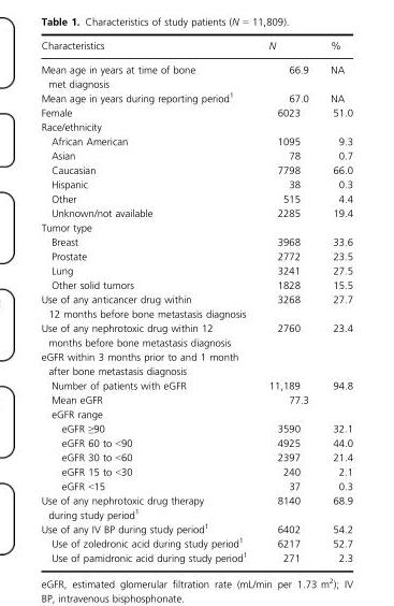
<table><thead><tr><td>Characteristics</td><td>N</td><td>%</td></tr></thead><tbody><tr><td>Mean age in years at time of bone met diagnosis</td><td>66.9</td><td>NA</td></tr><tr><td>Mean age in years during reporting period<sup>1</sup></td><td>67.0</td><td>NA</td></tr><tr><td>Female</td><td>6023</td><td>51.0</td></tr><tr><td colspan="3">Race/ethnicity</td></tr><tr><td>African American</td><td>1095</td><td>9.3</td></tr><tr><td>Asian</td><td>78</td><td>0.7</td></tr><tr><td>Caucasian</td><td>7798</td><td>66.0</td></tr><tr><td>Hispanic</td><td>38</td><td>0.3</td></tr><tr><td>Other</td><td>515</td><td>4.4</td></tr><tr><td>Unknown/not available</td><td>2285</td><td>19.4</td></tr><tr><td colspan="3">Tumor type</td></tr><tr><td>Breast</td><td>3968</td><td>33.6</td></tr><tr><td>Prostate</td><td>2772</td><td>23.5</td></tr><tr><td>Lung</td><td>3241</td><td>27.5</td></tr><tr><td>Other solid tumors</td><td>1828</td><td>15.5</td></tr><tr><td>Use of any anticancer drug within 12 months before bone metastasis diagnosis</td><td>3268</td><td>27.7</td></tr><tr><td>Use of any nephrotoxic drug within 12 months before bone metastasis diagnosis</td><td>2760</td><td>23.4</td></tr><tr><td colspan="3">eGFR within 3 months prior to and 1 month after bone metastasis diagnosis</td></tr><tr><td>Number of patients with eGFR</td><td>11,189</td><td>94.8</td></tr><tr><td>Mean eGFR</td><td>77.3</td><td></td></tr><tr><td colspan="3">eGFR range</td></tr><tr><td>eGFR ≥90</td><td>3590</td><td>32.1</td></tr><tr><td>eGFR 60 to &lt;90</td><td>4925</td><td>44.0</td></tr><tr><td>eGFR 30 to &lt;60</td><td>2397</td><td>21.4</td></tr><tr><td>eGFR 15 to &lt;30</td><td>240</td><td>2.1</td></tr><tr><td>eGFR &lt;15</td><td>37</td><td>0.3</td></tr><tr><td>Use of any nephrotoxic drug therapy during study period<sup>1</sup></td><td>8140</td><td>68.9</td></tr><tr><td>Use of any IV BP during study period<sup>1</sup></td><td>6402</td><td>54.2</td></tr><tr><td>Use of zoledronic acid during study period<sup>1</sup></td><td>6217</td><td>52.7</td></tr><tr><td>Use of pamidronic acid during study period<sup>1</sup></td><td>271</td><td>2.3</td></tr></tbody></table>